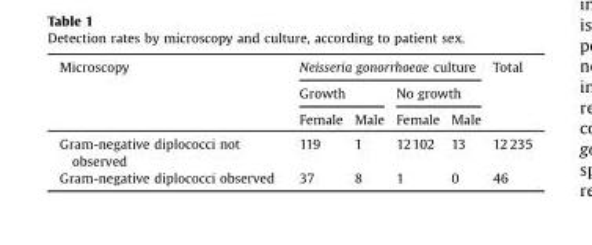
<table><thead><tr><td rowspan="3">Microscopy</td><td colspan="4">Neisseria gonorrhoeae culture</td><td rowspan="3">Total</td></tr><tr><td colspan="2">Growth</td><td colspan="2">No growth</td></tr><tr><td>Female</td><td>Male</td><td>Female</td><td>Male</td></tr></thead><tbody><tr><td>Gram-negative diplococci not observed</td><td>119</td><td>1</td><td>12102</td><td>13</td><td>12 235</td></tr><tr><td>Gram-negative diplococci observed</td><td>37</td><td>8</td><td>1</td><td>0</td><td>46</td></tr></tbody></table>